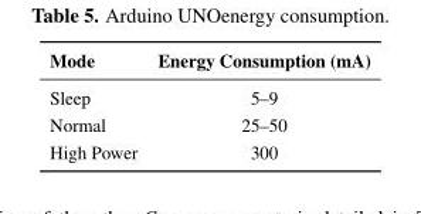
<table><thead><tr><td>Mode</td><td>Energy Consumption (mA)</td></tr></thead><tbody><tr><td>Sleep</td><td>5–9</td></tr><tr><td>Normal</td><td>25–50</td></tr><tr><td>High Power</td><td>300</td></tr></tbody></table>